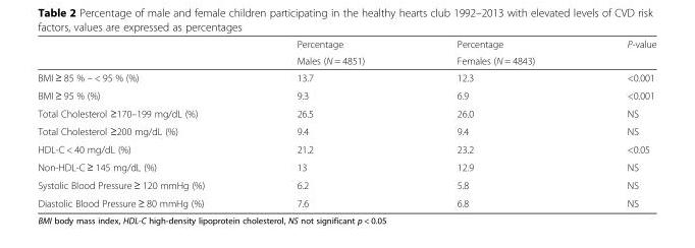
<table><thead><tr><td rowspan="2"></td><td rowspan="2">Percentage Males (N = 4851)</td><td rowspan="2">Percentage Females (N = 4843)</td><td rowspan="2">P-value</td></tr><tr></tr></thead><tbody><tr><td>BMI ≥ 85 % – &lt; 95 % (%)</td><td>13.7</td><td>12.3</td><td>&lt;0.001</td></tr><tr><td>BMI ≥ 95 % (%)</td><td>9.3</td><td>6.9</td><td>&lt;0.001</td></tr><tr><td>Total Cholesterol ≥170–199 mg/dL (%)</td><td>26.5</td><td>26.0</td><td>NS</td></tr><tr><td>Total Cholesterol ≥200 mg/dL (%)</td><td>9.4</td><td>9.4</td><td>NS</td></tr><tr><td>HDL-C &lt; 40 mg/dL (%)</td><td>21.2</td><td>23.2</td><td>&lt;0.05</td></tr><tr><td>Non-HDL-C ≥ 145 mg/dL (%)</td><td>13</td><td>12.9</td><td>NS</td></tr><tr><td>Systolic Blood Pressure ≥ 120 mmHg (%)</td><td>6.2</td><td>5.8</td><td>NS</td></tr><tr><td>Diastolic Blood Pressure ≥ 80 mmHg (%)</td><td>7.6</td><td>6.8</td><td>NS</td></tr></tbody></table>